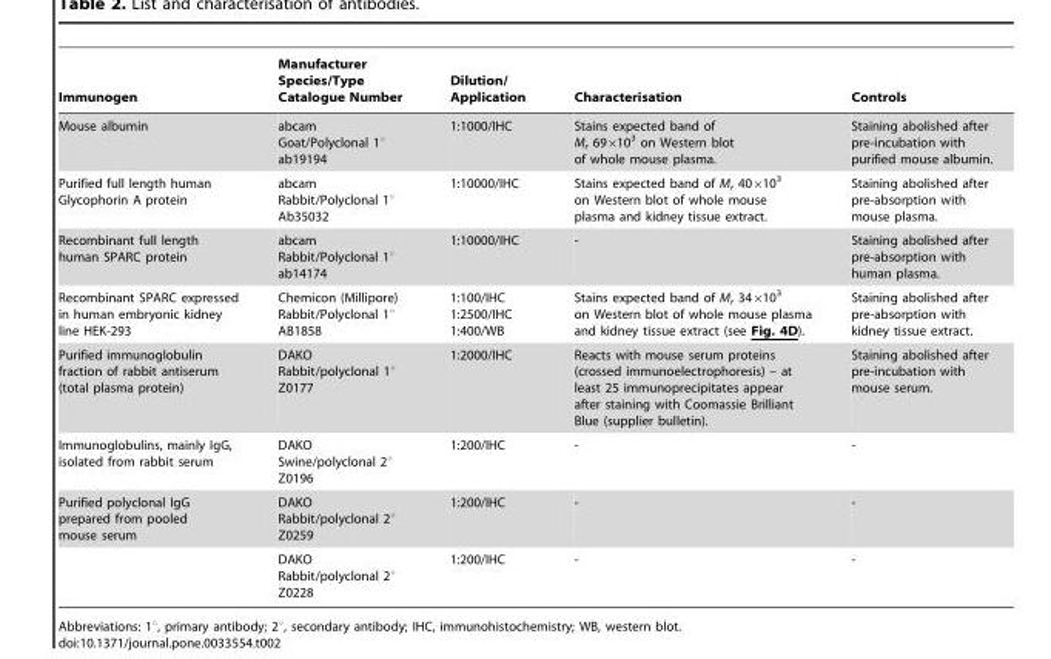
<table><thead><tr><td>Immunogen</td><td>Manufacturer Species/Type Catalogue Number</td><td>Dilution/ Application</td><td>Characterisation</td><td>Controls</td></tr></thead><tbody><tr><td>Mouse albumin</td><td>abcam Goat/Polyclonal 1° ab19194</td><td>1:1000/IHC</td><td>Stains expected band of M<sub>r</sub> 69×10<sup>3</sup> on Western blot of whole mouse plasma.</td><td>Staining abolished after pre-incubation with purified mouse albumin.</td></tr><tr><td>Purified full length human Glycophorin A protein</td><td>abcam Rabbit/Polyclonal 1° Ab35032</td><td>1:10000/IHC</td><td>Stains expected band of M<sub>r</sub> 40×10<sup>3</sup> on Western blot of whole mouse plasma and kidney tissue extract.</td><td>Staining abolished after pre-absorption with mouse plasma.</td></tr><tr><td>Recombinant full length human SPARC protein</td><td>abcam Rabbit/Polyclonal 1° ab14174</td><td>1:10000/IHC</td><td>-</td><td>Staining abolished after pre-absorption with human plasma.</td></tr><tr><td>Recombinant SPARC expressed in human embryonic kidney line HEK-293</td><td>Chemicon (Millipore) Rabbit/Polyclonal 1° AB1858</td><td>1:100/IHC 1:2500/IHC 1:400/WB</td><td>Stains expected band of M<sub>r</sub> 34×10<sup>3</sup> on Western blot of whole mouse plasma and kidney tissue extract (see Fig. 4D).</td><td>Staining abolished after pre-absorption with kidney tissue extract.</td></tr><tr><td>Purified immunoglobulin fraction of rabbit antiserum (total plasma protein)</td><td>DAKO Rabbit/polyclonal 1° Z0177</td><td>1:2000/IHC</td><td>Reacts with mouse serum proteins (crossed immunoelectrophoresis) – at least 25 immunoprecipitates appear after staining with Coomassie Brilliant Blue (supplier bulletin).</td><td>Staining abolished after pre-incubation with mouse serum.</td></tr><tr><td>Immunoglobulins, mainly IgG, isolated from rabbit serum</td><td>DAKO Swine/polyclonal 2° Z0196</td><td>1:200/IHC</td><td>-</td><td>-</td></tr><tr><td rowspan="2">Purified polyclonal IgG prepared from pooled mouse serum</td><td>DAKO Rabbit/polyclonal 2° Z0259</td><td>1:200/IHC</td><td>-</td><td>-</td></tr><tr><td>DAKO Rabbit/polyclonal 2° Z0228</td><td>1:200/IHC</td><td>-</td><td>-</td></tr></tbody></table>